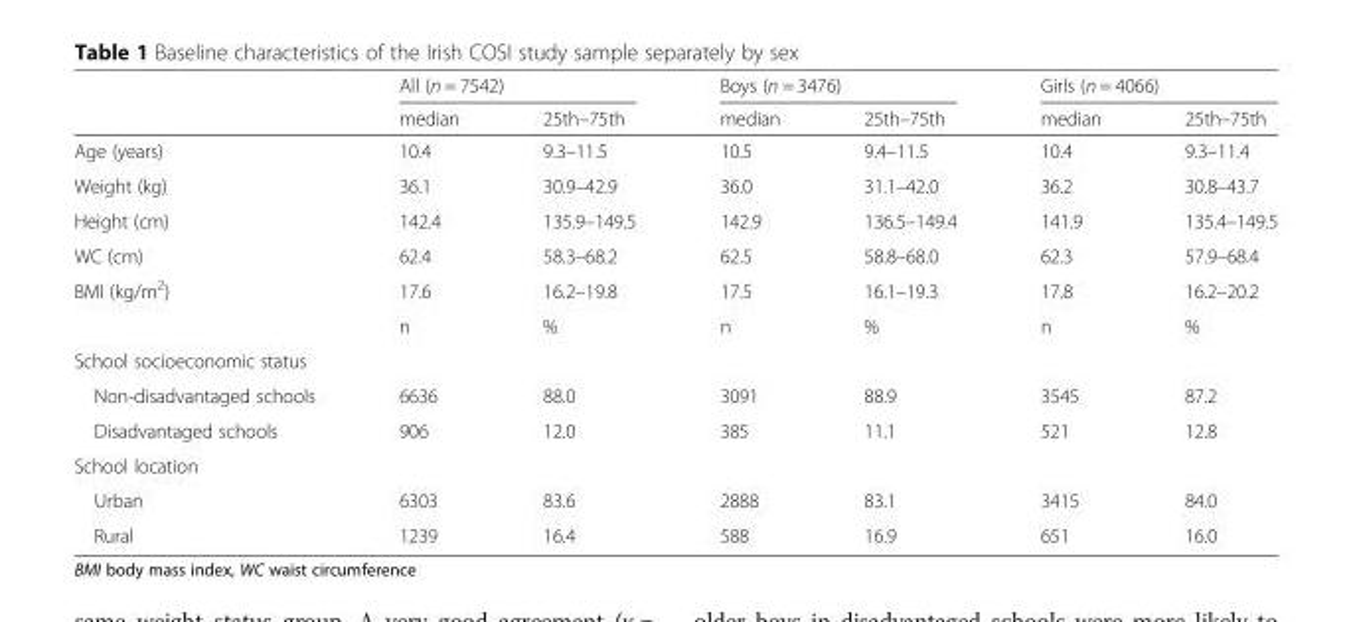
<table><thead><tr><td rowspan="2"></td><td colspan="2">All (n = 7542)</td><td colspan="2">Boys (n = 3476)</td><td colspan="2">Girls (n = 4066)</td></tr><tr><td>median</td><td>25th–75th</td><td>median</td><td>25th–75th</td><td>median</td><td>25th–75th</td></tr></thead><tbody><tr><td>Age (years)</td><td>10.4</td><td>9.3–11.5</td><td>10.5</td><td>9.4–11.5</td><td>10.4</td><td>9.3–11.4</td></tr><tr><td>Weight (kg)</td><td>36.1</td><td>30.9–42.9</td><td>36.0</td><td>31.1–42.0</td><td>36.2</td><td>30.8–43.7</td></tr><tr><td>Height (cm)</td><td>142.4</td><td>135.9–149.5</td><td>142.9</td><td>136.5–149.4</td><td>141.9</td><td>135.4–149.5</td></tr><tr><td>WC (cm)</td><td>62.4</td><td>58.3–68.2</td><td>62.5</td><td>58.8–68.0</td><td>62.3</td><td>57.9–68.4</td></tr><tr><td rowspan="2">BMI (kg/m<sup>2</sup>)</td><td>17.6</td><td>16.2–19.8</td><td>17.5</td><td>16.1–19.3</td><td>17.8</td><td>16.2–20.2</td></tr><tr><td>n</td><td>%</td><td>n</td><td>%</td><td>n</td><td>%</td></tr><tr><td colspan="7">School socioeconomic status</td></tr><tr><td>Non-disadvantaged schools</td><td>6636</td><td>88.0</td><td>3091</td><td>88.9</td><td>3545</td><td>87.2</td></tr><tr><td>Disadvantaged schools</td><td>906</td><td>12.0</td><td>385</td><td>11.1</td><td>521</td><td>12.8</td></tr><tr><td colspan="7">School location</td></tr><tr><td>Urban</td><td>6303</td><td>83.6</td><td>2888</td><td>83.1</td><td>3415</td><td>84.0</td></tr><tr><td>Rural</td><td>1239</td><td>16.4</td><td>588</td><td>16.9</td><td>651</td><td>16.0</td></tr></tbody></table>